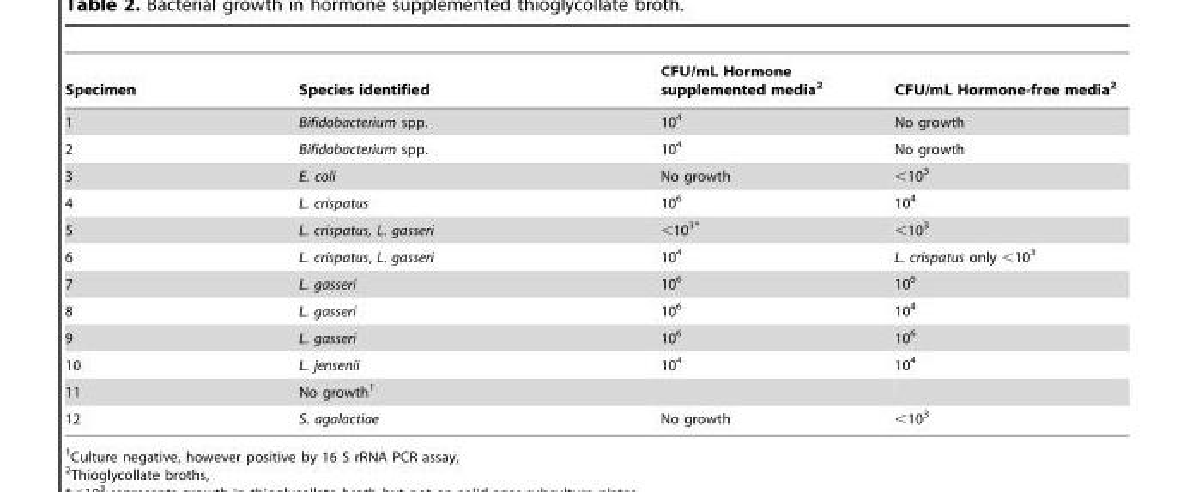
<table><thead><tr><td>Specimen</td><td>Species identified</td><td>CFU/mL Hormone supplemented media<sup>2</sup></td><td>CFU/mL Hormone-free media<sup>2</sup></td></tr></thead><tbody><tr><td>1</td><td>Bifidobacterium spp.</td><td>10<sup>4</sup></td><td>No growth</td></tr><tr><td>2</td><td>Bifidobacterium spp.</td><td>10<sup>4</sup></td><td>No growth</td></tr><tr><td>3</td><td>E. coli</td><td>No growth</td><td>&lt;10<sup>3</sup></td></tr><tr><td>4</td><td>L. crispatus</td><td>10<sup>6</sup></td><td>10<sup>4</sup></td></tr><tr><td>5</td><td>L. crispatus, L. gasseri</td><td>&lt;10<sup>3</sup>*</td><td>&lt;10<sup>3</sup></td></tr><tr><td>6</td><td>L. crispatus, L. gasseri</td><td>10<sup>4</sup></td><td>L. crispatus only &lt;10<sup>3</sup></td></tr><tr><td>7</td><td>L. gasseri</td><td>10<sup>6</sup></td><td>10<sup>6</sup></td></tr><tr><td>8</td><td>L. gasseri</td><td>10<sup>6</sup></td><td>10<sup>4</sup></td></tr><tr><td>9</td><td>L. gasseri</td><td>10<sup>6</sup></td><td>10<sup>6</sup></td></tr><tr><td>10</td><td>L. jensenii</td><td>10<sup>4</sup></td><td>10<sup>4</sup></td></tr><tr><td>11</td><td>No growth<sup>1</sup></td><td></td><td></td></tr><tr><td>12</td><td>S. agalactiae</td><td>No growth</td><td>&lt;10<sup>3</sup></td></tr></tbody></table>